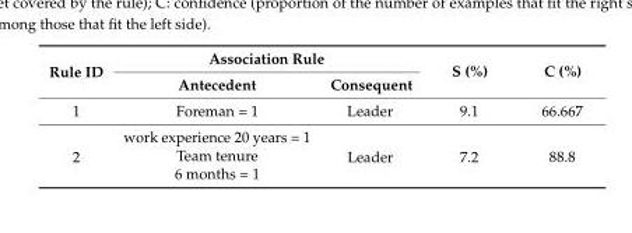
<table><thead><tr><td rowspan="2">Rule ID</td><td colspan="2">Association Rule</td><td rowspan="2">S (%)</td><td rowspan="2">C (%)</td></tr><tr><td>Antecedent</td><td>Consequent</td></tr></thead><tbody><tr><td>1</td><td>Foreman = 1</td><td>Leader</td><td>9.1</td><td>66.667</td></tr><tr><td rowspan="3">2</td><td>work experience 20 years = 1</td><td rowspan="3">Leader</td><td rowspan="3">7.2</td><td rowspan="3">88.8</td></tr><tr><td>Team tenure</td></tr><tr><td>6 months = 1</td></tr></tbody></table>